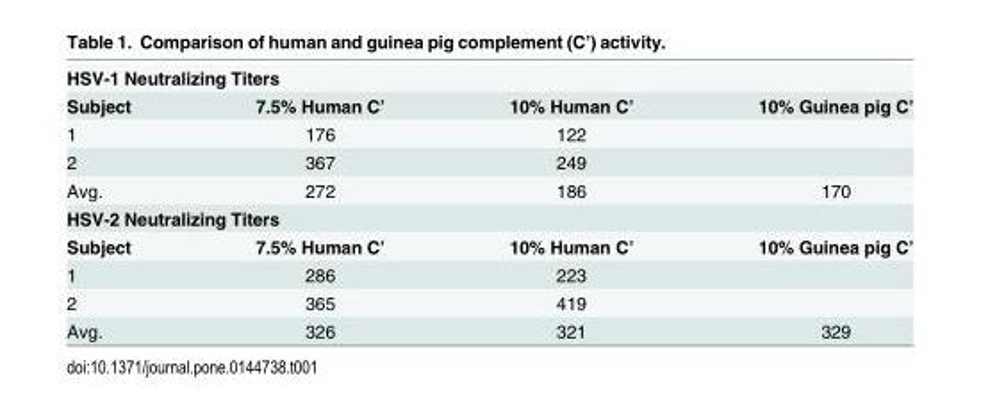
<table><tbody><tr><td colspan="4">HSV-1 Neutralizing Titers</td></tr><tr><td>Subject</td><td>7.5% Human C’</td><td>10% Human C’</td><td>10% Guinea pig C’</td></tr><tr><td>1</td><td>176</td><td>122</td><td></td></tr><tr><td>2</td><td>367</td><td>249</td><td></td></tr><tr><td>Avg.</td><td>272</td><td>186</td><td>170</td></tr><tr><td colspan="4">HSV-2 Neutralizing Titers</td></tr><tr><td>Subject</td><td>7.5% Human C’</td><td>10% Human C’</td><td>10% Guinea pig C’</td></tr><tr><td>1</td><td>286</td><td>223</td><td></td></tr><tr><td>2</td><td>365</td><td>419</td><td></td></tr><tr><td>Avg.</td><td>326</td><td>321</td><td>329</td></tr></tbody></table>